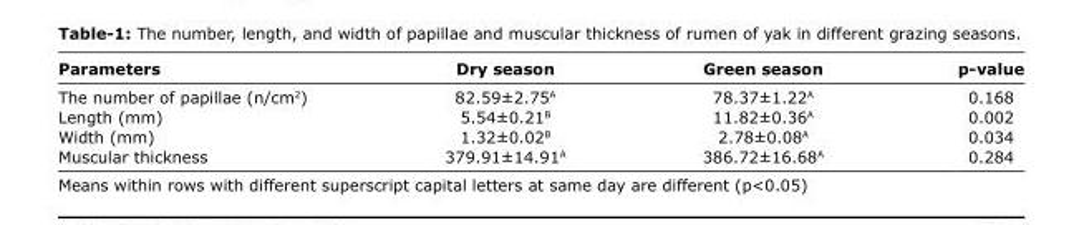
<table><thead><tr><td>Parameters</td><td>Dry season</td><td>Green season</td><td>p-value</td></tr></thead><tbody><tr><td>The number of papillae (n/cm<sup>2</sup>)</td><td>82.59±2.75<sup>A</sup></td><td>78.37±1.22<sup>A</sup></td><td>0.168</td></tr><tr><td>Length (mm)</td><td>5.54±0.21<sup>B</sup></td><td>11.82±0.36<sup>A</sup></td><td>0.002</td></tr><tr><td>Width (mm)</td><td>1.32±0.02<sup>B</sup></td><td>2.78±0.08<sup>A</sup></td><td>0.034</td></tr><tr><td>Muscular thickness</td><td>379.91±14.91<sup>A</sup></td><td>386.72±16.68<sup>A</sup></td><td>0.284</td></tr></tbody></table>